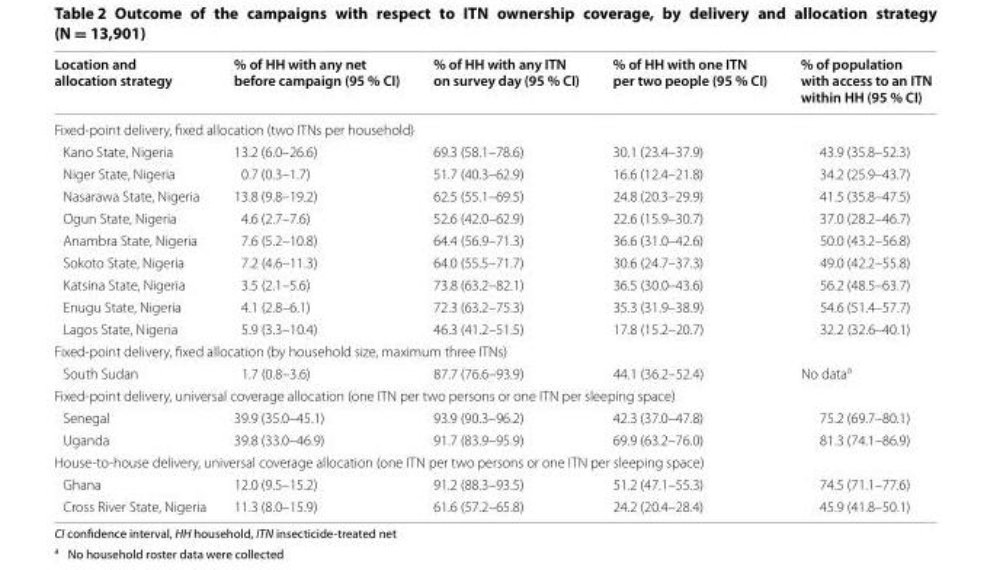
<table><thead><tr><td>Location and allocation strategy</td><td>% of HH with any net before campaign (95 % CI)</td><td>% of HH with any ITN on survey day (95 % CI)</td><td>% of HH with one ITN per two people (95 % CI)</td><td>% of population with access to an ITN within HH (95 % CI)</td></tr></thead><tbody><tr><td colspan="5">Fixed‑point delivery, fixed allocation (two ITNs per household)</td></tr><tr><td>Kano State, Nigeria</td><td>13.2 (6.0–26.6)</td><td>69.3 (58.1–78.6)</td><td>30.1 (23.4–37.9)</td><td>43.9 (35.8–52.3)</td></tr><tr><td>Niger State, Nigeria</td><td>0.7 (0.3–1.7)</td><td>51.7 (40.3–62.9)</td><td>16.6 (12.4–21.8)</td><td>34.2 (25.9–43.7)</td></tr><tr><td>Nasarawa State, Nigeria</td><td>13.8 (9.8–19.2)</td><td>62.5 (55.1–69.5)</td><td>24.8 (20.3–29.9)</td><td>41.5 (35.8–47.5)</td></tr><tr><td>Ogun State, Nigeria</td><td>4.6 (2.7–7.6)</td><td>52.6 (42.0–62.9)</td><td>22.6 (15.9–30.7)</td><td>37.0 (28.2–46.7)</td></tr><tr><td>Anambra State, Nigeria</td><td>7.6 (5.2–10.8)</td><td>64.4 (56.9–71.3)</td><td>36.6 (31.0–42.6)</td><td>50.0 (43.2–56.8)</td></tr><tr><td>Sokoto State, Nigeria</td><td>7.2 (4.6–11.3)</td><td>64.0 (55.5–71.7)</td><td>30.6 (24.7–37.3)</td><td>49.0 (42.2–55.8)</td></tr><tr><td>Katsina State, Nigeria</td><td>3.5 (2.1–5.6)</td><td>73.8 (63.2–82.1)</td><td>36.5 (30.0–43.6)</td><td>56.2 (48.5–63.7)</td></tr><tr><td>Enugu State, Nigeria</td><td>4.1 (2.8–6.1)</td><td>72.3 (63.2–75.3)</td><td>35.3 (31.9–38.9)</td><td>54.6 (51.4–57.7)</td></tr><tr><td>Lagos State, Nigeria</td><td>5.9 (3.3–10.4)</td><td>46.3 (41.2–51.5)</td><td>17.8 (15.2–20.7)</td><td>32.2 (32.6–40.1)</td></tr><tr><td colspan="5">Fixed‑point delivery, fixed allocation (by household size, maximum three ITNs)</td></tr><tr><td>South Sudan</td><td>1.7 (0.8–3.6)</td><td>87.7 (76.6–93.9)</td><td>44.1 (36.2–52.4)</td><td>No data<sup>a</sup></td></tr><tr><td colspan="5">Fixed‑point delivery, universal coverage allocation (one ITN per two persons or one ITN per sleeping space)</td></tr><tr><td>Senegal</td><td>39.9 (35.0–45.1)</td><td>93.9 (90.3–96.2)</td><td>42.3 (37.0–47.8)</td><td>75.2 (69.7–80.1)</td></tr><tr><td>Uganda</td><td>39.8 (33.0–46.9)</td><td>91.7 (83.9–95.9)</td><td>69.9 (63.2–76.0)</td><td>81.3 (74.1–86.9)</td></tr><tr><td colspan="5">House‑to‑house delivery, universal coverage allocation (one ITN per two persons or one ITN per sleeping space)</td></tr><tr><td>Ghana</td><td>12.0 (9.5–15.2)</td><td>91.2 (88.3–93.5)</td><td>51.2 (47.1–55.3)</td><td>74.5 (71.1–77.6)</td></tr><tr><td>Cross River State, Nigeria</td><td>11.3 (8.0–15.9)</td><td>61.6 (57.2–65.8)</td><td>24.2 (20.4–28.4)</td><td>45.9 (41.8–50.1)</td></tr></tbody></table>